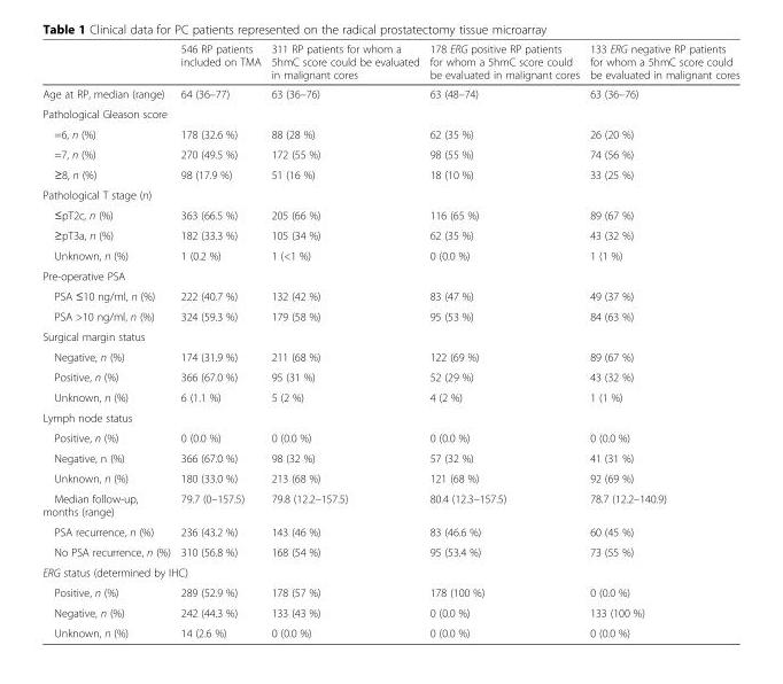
<table><thead><tr><td></td><td>546 RP patients included on TMA</td><td>311 RP patients for whom a 5hmC score could be evaluated in malignant cores</td><td>178 ERG positive RP patients for whom a 5hmC score could be evaluated in malignant cores</td><td>133 ERG negative RP patients for whom a 5hmC score could be evaluated in malignant cores</td></tr></thead><tbody><tr><td>Age at RP, median (range)</td><td>64 (36–77)</td><td>63 (36–76)</td><td>63 (48–74)</td><td>63 (36–76)</td></tr><tr><td colspan="5">Pathological Gleason score</td></tr><tr><td>=6, n (%)</td><td>178 (32.6 %)</td><td>88 (28 %)</td><td>62 (35 %)</td><td>26 (20 %)</td></tr><tr><td>=7, n (%)</td><td>270 (49.5 %)</td><td>172 (55 %)</td><td>98 (55 %)</td><td>74 (56 %)</td></tr><tr><td>≥8, n (%)</td><td>98 (17.9 %)</td><td>51 (16 %)</td><td>18 (10 %)</td><td>33 (25 %)</td></tr><tr><td colspan="5">Pathological T stage (n)</td></tr><tr><td>≤pT2c, n (%)</td><td>363 (66.5 %)</td><td>205 (66 %)</td><td>116 (65 %)</td><td>89 (67 %)</td></tr><tr><td>≥pT3a, n (%)</td><td>182 (33.3 %)</td><td>105 (34 %)</td><td>62 (35 %)</td><td>43 (32 %)</td></tr><tr><td>Unknown, n (%)</td><td>1 (0.2 %)</td><td>1 (&lt;1 %)</td><td>0 (0.0 %)</td><td>1 (1 %)</td></tr><tr><td colspan="5">Pre-operative PSA</td></tr><tr><td>PSA ≤10 ng/ml, n (%)</td><td>222 (40.7 %)</td><td>132 (42 %)</td><td>83 (47 %)</td><td>49 (37 %)</td></tr><tr><td>PSA &gt;10 ng/ml, n (%)</td><td>324 (59.3 %)</td><td>179 (58 %)</td><td>95 (53 %)</td><td>84 (63 %)</td></tr><tr><td colspan="5">Surgical margin status</td></tr><tr><td>Negative, n (%)</td><td>174 (31.9 %)</td><td>211 (68 %)</td><td>122 (69 %)</td><td>89 (67 %)</td></tr><tr><td>Positive, n (%)</td><td>366 (67.0 %)</td><td>95 (31 %)</td><td>52 (29 %)</td><td>43 (32 %)</td></tr><tr><td>Unknown, n (%)</td><td>6 (1.1 %)</td><td>5 (2 %)</td><td>4 (2 %)</td><td>1 (1 %)</td></tr><tr><td colspan="5">Lymph node status</td></tr><tr><td>Positive, n (%)</td><td>0 (0.0 %)</td><td>0 (0.0 %)</td><td>0 (0.0 %)</td><td>0 (0.0 %)</td></tr><tr><td>Negative, n (%)</td><td>366 (67.0 %)</td><td>98 (32 %)</td><td>57 (32 %)</td><td>41 (31 %)</td></tr><tr><td>Unknown, n (%)</td><td>180 (33.0 %)</td><td>213 (68 %)</td><td>121 (68 %)</td><td>92 (69 %)</td></tr><tr><td>Median follow-up, months (range)</td><td>79.7 (0–157.5)</td><td>79.8 (12.2–157.5)</td><td>80.4 (12.3–157.5)</td><td>78.7 (12.2–140.9)</td></tr><tr><td>PSA recurrence, n (%)</td><td>236 (43.2 %)</td><td>143 (46 %)</td><td>83 (46.6 %)</td><td>60 (45 %)</td></tr><tr><td>No PSA recurrence, n (%)</td><td>310 (56.8 %)</td><td>168 (54 %)</td><td>95 (53.4 %)</td><td>73 (55 %)</td></tr><tr><td colspan="5">ERG status (determined by IHC)</td></tr><tr><td>Positive, n (%)</td><td>289 (52.9 %)</td><td>178 (57 %)</td><td>178 (100 %)</td><td>0 (0.0 %)</td></tr><tr><td>Negative, n (%)</td><td>242 (44.3 %)</td><td>133 (43 %)</td><td>0 (0.0 %)</td><td>133 (100 %)</td></tr><tr><td>Unknown, n (%)</td><td>14 (2.6 %)</td><td>0 (0.0 %)</td><td>0 (0.0 %)</td><td>0 (0.0 %)</td></tr></tbody></table>